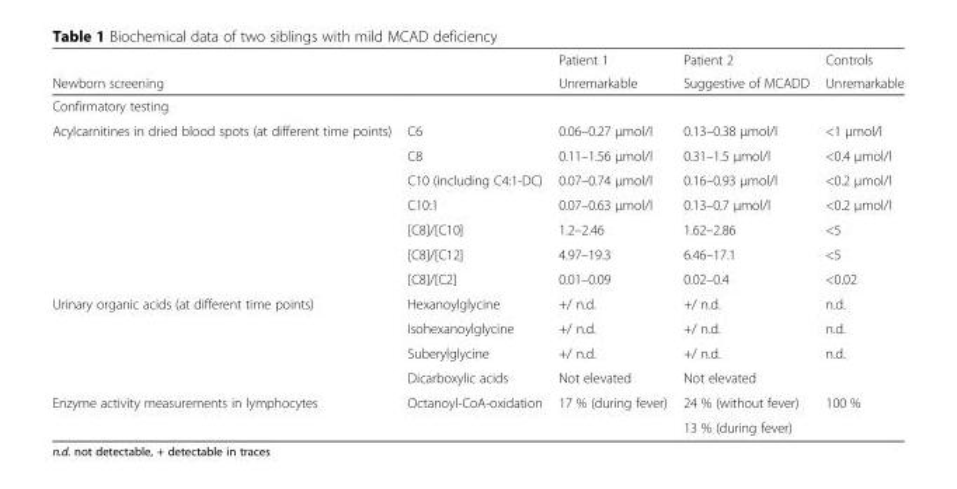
<table><thead><tr><td rowspan="2">Newborn screening</td><td rowspan="2"></td><td rowspan="2">Patient 1 Unremarkable</td><td rowspan="2">Patient 2 Suggestive of MCADD</td><td rowspan="2">Controls Unremarkable</td></tr><tr></tr></thead><tbody><tr><td colspan="5">Confirmatory testing</td></tr><tr><td rowspan="7">Acylcarnitines in dried blood spots (at different time points)</td><td>C6</td><td>0.06–0.27 μmol/l</td><td>0.13–0.38 μmol/l</td><td>&lt;1 μmol/l</td></tr><tr><td>C8</td><td>0.11–1.56 μmol/l</td><td>0.31–1.5 μmol/l</td><td>&lt;0.4 μmol/l</td></tr><tr><td>C10 (including C4:1-DC)</td><td>0.07–0.74 μmol/l</td><td>0.16–0.93 μmol/l</td><td>&lt;0.2 μmol/l</td></tr><tr><td>C10:1</td><td>0.07–0.63 μmol/l</td><td>0.13–0.7 μmol/l</td><td>&lt;0.2 μmol/l</td></tr><tr><td>[C8]/[C10]</td><td>1.2–2.46</td><td>1.62–2.86</td><td>&lt;5</td></tr><tr><td>[C8]/[C12]</td><td>4.97–19.3</td><td>6.46–17.1</td><td>&lt;5</td></tr><tr><td>[C8]/[C2]</td><td>0.01–0.09</td><td>0.02–0.4</td><td>&lt;0.02</td></tr><tr><td rowspan="4">Urinary organic acids (at different time points)</td><td>Hexanoylglycine</td><td>+/ n.d.</td><td>+/ n.d.</td><td>n.d.</td></tr><tr><td>Isohexanoylglycine</td><td>+/ n.d.</td><td>+/ n.d.</td><td>n.d.</td></tr><tr><td>Suberylglycine</td><td>+/ n.d.</td><td>+/ n.d.</td><td>n.d.</td></tr><tr><td>Dicarboxylic acids</td><td>Not elevated</td><td>Not elevated</td><td></td></tr><tr><td rowspan="2">Enzyme activity measurements in lymphocytes</td><td rowspan="2">Octanoyl-CoA-oxidation</td><td rowspan="2">17 % (during fever)</td><td>24 % (without fever)</td><td rowspan="2">100 %</td></tr><tr><td>13 % (during fever)</td></tr></tbody></table>